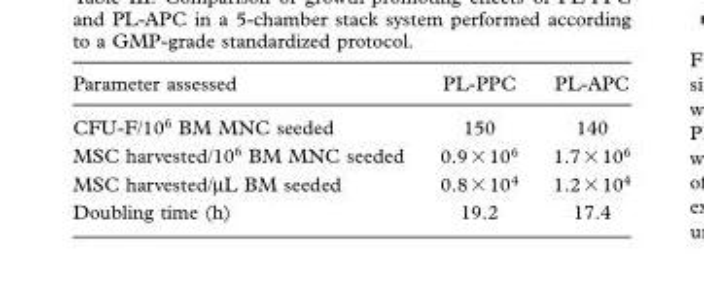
<table><thead><tr><td>Parameter assessed</td><td>PL-PPC</td><td>PL-APC</td></tr></thead><tbody><tr><td>CFU-F/10 <sup>6</sup> BM MNC seeded</td><td>150</td><td>140</td></tr><tr><td>MSC harvested/10 <sup>6</sup> BM MNC seeded</td><td>0.9 × 10 <sup>6</sup></td><td>1.7 × 10 <sup>6</sup></td></tr><tr><td>MSC harvested/ μ L BM seeded</td><td>0.8 � 10 4</td><td>1.2 � 10 4</td></tr><tr><td>Doubling time (h)</td><td>19.2</td><td>17.4</td></tr></tbody></table>